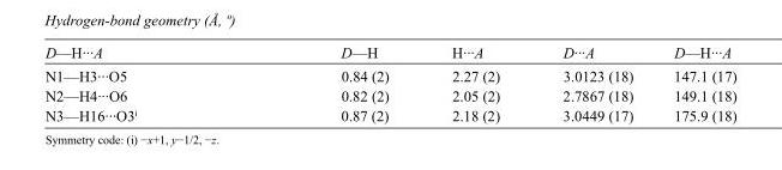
<table><tbody><tr><td>D—H···A</td><td>D—H</td><td>H···A</td><td>D···A</td><td>D—H···A</td></tr><tr><td>N1—H3···O5</td><td>0.84 (2)</td><td>2.27 (2)</td><td>3.0123 (18)</td><td>147.1 (17)</td></tr><tr><td>N2—H4···O6</td><td>0.82 (2)</td><td>2.05 (2)</td><td>2.7867 (18)</td><td>149.1 (18)</td></tr><tr><td>N3—H16···O3<sup>i</sup></td><td>0.87 (2)</td><td>2.18 (2)</td><td>3.0449 (17)</td><td>175.9 (18)</td></tr></tbody></table>